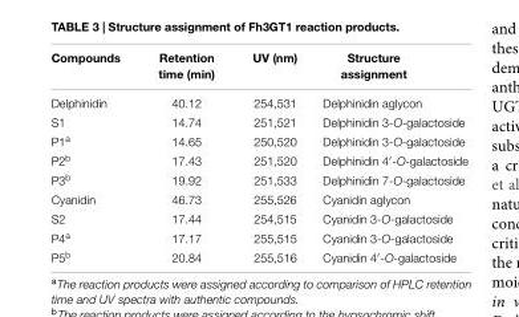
<table><thead><tr><td>Compounds</td><td>Retention time (min)</td><td>UV (nm)</td><td>Structure assignment</td></tr></thead><tbody><tr><td>Delphinidin</td><td>40.12</td><td>254,531</td><td>Delphinidin aglycon</td></tr><tr><td>S1</td><td>14.74</td><td>251,521</td><td>Delphinidin 3-O-galactoside</td></tr><tr><td>P1<sup>a</sup></td><td>14.65</td><td>250,520</td><td>Delphinidin 3-O-galactoside</td></tr><tr><td>P2<sup>b</sup></td><td>17.43</td><td>251,520</td><td>Delphinidin 4′-O-galactoside</td></tr><tr><td>P3<sup>b</sup></td><td>19.92</td><td>251,533</td><td>Delphinidin 7-O-galactoside</td></tr><tr><td>Cyanidin</td><td>46.73</td><td>255,526</td><td>Cyanidin aglycon</td></tr><tr><td>S2</td><td>17.44</td><td>254,515</td><td>Cyanidin 3-O-galactoside</td></tr><tr><td>P4<sup>a</sup></td><td>17.17</td><td>255,515</td><td>Cyanidin 3-O-galactoside</td></tr><tr><td>P5<sup>b</sup></td><td>20.84</td><td>255,516</td><td>Cyanidin 4′-O-galactoside</td></tr></tbody></table>